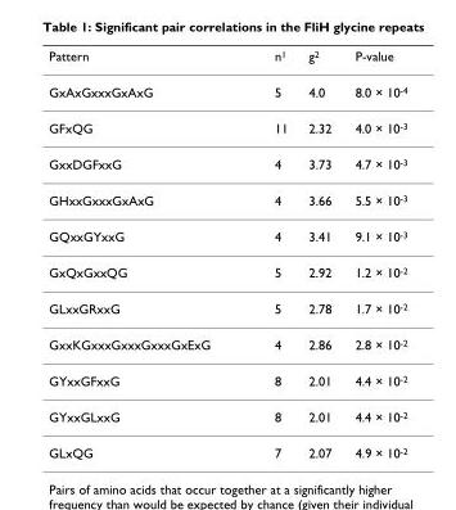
<table><thead><tr><td>Pattern</td><td>n<sup>1</sup></td><td>g<sup>2</sup></td><td>P-value</td></tr></thead><tbody><tr><td>GxAxGxxxGxAxG</td><td>5</td><td>4.0</td><td>8.0 × 10<sup>-4</sup></td></tr><tr><td>GFxQG</td><td>11</td><td>2.32</td><td>4.0 × 10<sup>-3</sup></td></tr><tr><td>GxxDGFxxG</td><td>4</td><td>3.73</td><td>4.7 × 10<sup>-3</sup></td></tr><tr><td>GHxxGxxxGxAxG</td><td>4</td><td>3.66</td><td>5.5 × 10<sup>-3</sup></td></tr><tr><td>GQxxGYxxG</td><td>4</td><td>3.41</td><td>9.1 × 10<sup>-3</sup></td></tr><tr><td>GxQxGxxQG</td><td>5</td><td>2.92</td><td>1.2 × 10<sup>-2</sup></td></tr><tr><td>GLxxGRxxG</td><td>5</td><td>2.78</td><td>1.7 × 10<sup>-2</sup></td></tr><tr><td>GxxKGxxxGxxxGxxxGxExG</td><td>4</td><td>2.86</td><td>2.8 × 10<sup>-2</sup></td></tr><tr><td>GYxxGFxxG</td><td>8</td><td>2.01</td><td>4.4 × 10<sup>-2</sup></td></tr><tr><td>GYxxGLxxG</td><td>8</td><td>2.01</td><td>4.4 × 10<sup>-2</sup></td></tr><tr><td>GLxQG</td><td>7</td><td>2.07</td><td>4.9 × 10<sup>-2</sup></td></tr></tbody></table>